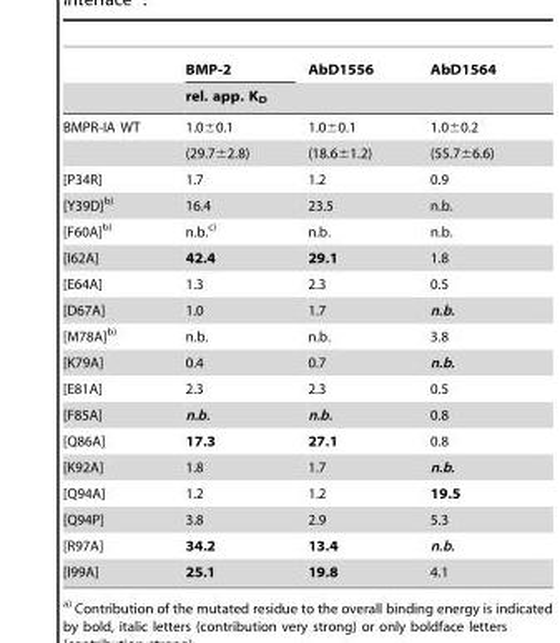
<table><thead><tr><td rowspan="2"></td><td>BMP-2</td><td>AbD1556</td><td>AbD1564</td></tr><tr><td colspan="3">rel. app. K<sub>D</sub></td></tr></thead><tbody><tr><td rowspan="2">BMPR-IA WT</td><td>1.0±0.1</td><td>1.0±0.1</td><td>1.0±0.2</td></tr><tr><td>(29.7±2.8)</td><td>(18.6±1.2)</td><td>(55.7±6.6)</td></tr><tr><td>[P34R]</td><td>1.7</td><td>1.2</td><td>0.9</td></tr><tr><td>[Y39D]<sup>b)</sup></td><td>16.4</td><td>23.5</td><td>n.b.</td></tr><tr><td>[F60A]<sup>b)</sup></td><td>n.b.<sup>c)</sup></td><td>n.b.</td><td>n.b.</td></tr><tr><td>[I62A]</td><td>42.4</td><td>29.1</td><td>1.8</td></tr><tr><td>[E64A]</td><td>1.3</td><td>2.3</td><td>0.5</td></tr><tr><td>[D67A]</td><td>1.0</td><td>1.7</td><td>n.b.</td></tr><tr><td>[M78A]<sup>b)</sup></td><td>n.b.</td><td>n.b.</td><td>3.8</td></tr><tr><td>[K79A]</td><td>0.4</td><td>0.7</td><td>n.b.</td></tr><tr><td>[E81A]</td><td>2.3</td><td>2.3</td><td>0.5</td></tr><tr><td>[F85A]</td><td>n.b.</td><td>n.b.</td><td>0.8</td></tr><tr><td>[Q86A]</td><td>17.3</td><td>27.1</td><td>0.8</td></tr><tr><td>[K92A]</td><td>1.8</td><td>1.7</td><td>n.b.</td></tr><tr><td>[Q94A]</td><td>1.2</td><td>1.2</td><td>19.5</td></tr><tr><td>[Q94P]</td><td>3.8</td><td>2.9</td><td>5.3</td></tr><tr><td>[R97A]</td><td>34.2</td><td>13.4</td><td>n.b.</td></tr><tr><td>[I99A]</td><td>25.1</td><td>19.8</td><td>4.1</td></tr></tbody></table>